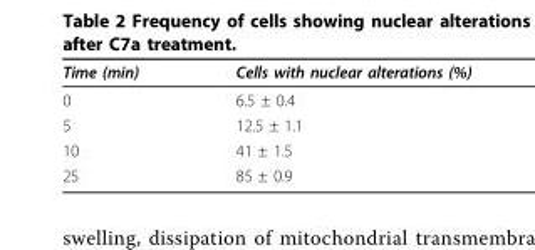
<table><thead><tr><td>Time (min)</td><td>Cells with nuclear alterations (%)</td></tr></thead><tbody><tr><td>0</td><td>6.5 ± 0.4</td></tr><tr><td>5</td><td>12.5 ± 1.1</td></tr><tr><td>10</td><td>41 ± 1.5</td></tr><tr><td>25</td><td>85 ± 0.9</td></tr></tbody></table>